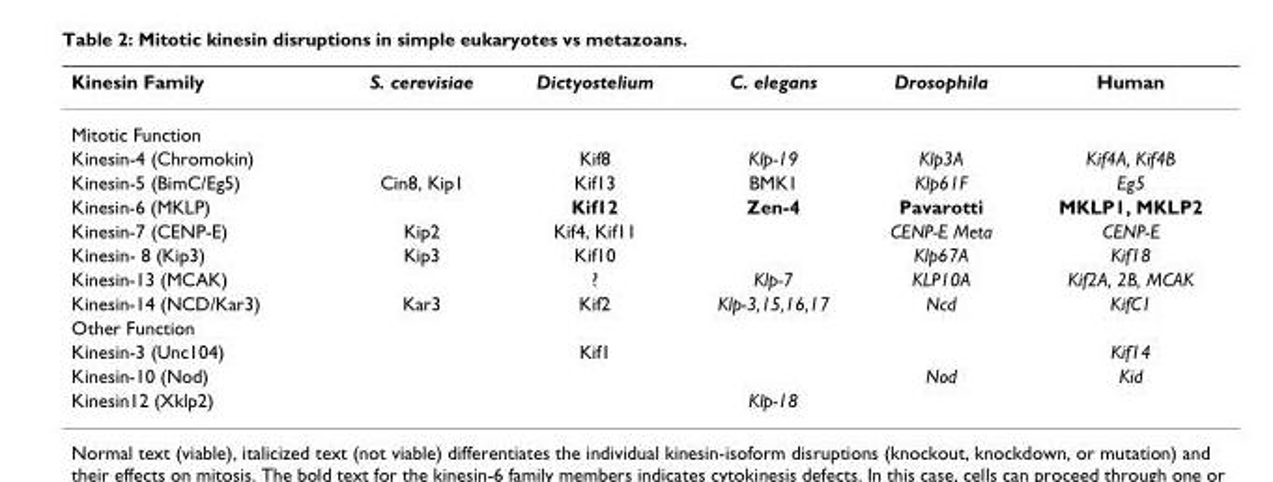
<table><thead><tr><td>Kinesin Family</td><td>S. cerevisiae</td><td>Dictyostelium</td><td>C. elegans</td><td>Drosophila</td><td>Human</td></tr></thead><tbody><tr><td colspan="6">Mitotic Function</td></tr><tr><td>Kinesin-4 (Chromokin)</td><td></td><td>Kif8</td><td>Klp-19</td><td>Klp3A</td><td>Kif4A, Kif4B</td></tr><tr><td>Kinesin-5 (BimC/Eg5)</td><td>Cin8, Kip1</td><td>Kif13</td><td>BMK1</td><td>Klp61F</td><td>Eg5</td></tr><tr><td>Kinesin-6 (MKLP)</td><td></td><td>Kif12</td><td>Zen-4</td><td>Pavarotti</td><td>MKLP1, MKLP2</td></tr><tr><td>Kinesin-7 (CENP-E)</td><td>Kip2</td><td>Kif4, Kif11</td><td></td><td>CENP-E Meta</td><td>CENP-E</td></tr><tr><td>Kinesin- 8 (Kip3)</td><td>Kip3</td><td>Kif10</td><td></td><td>Klp67A</td><td>Kif18</td></tr><tr><td>Kinesin-13 (MCAK)</td><td></td><td>?</td><td>Klp-7</td><td>KLP10A</td><td>Kif2A, 2B, MCAK</td></tr><tr><td>Kinesin-14 (NCD/Kar3)</td><td>Kar3</td><td>Kif2</td><td>Klp-3,15,16,17</td><td>Ncd</td><td>KifC1</td></tr><tr><td colspan="6">Other Function</td></tr><tr><td>Kinesin-3 (Unc104)</td><td></td><td>Kif1</td><td></td><td></td><td>Kif14</td></tr><tr><td>Kinesin-10 (Nod)</td><td></td><td></td><td></td><td>Nod</td><td>Kid</td></tr><tr><td>Kinesin12 (Xklp2)</td><td></td><td></td><td>Klp-18</td><td></td><td></td></tr></tbody></table>